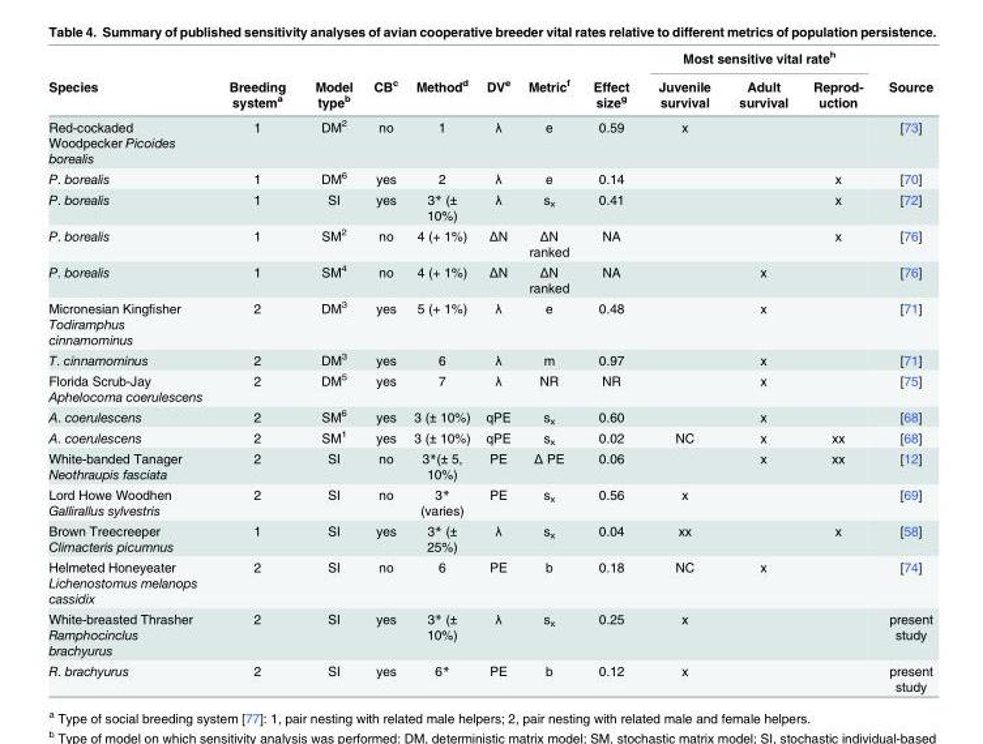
<table><thead><tr><td rowspan="2">Species</td><td rowspan="2">Breeding system<sup>a</sup></td><td rowspan="2">Model type<sup>b</sup></td><td rowspan="2">CB<sup>c</sup></td><td rowspan="2">Method<sup>d</sup></td><td rowspan="2">DV<sup>e</sup></td><td rowspan="2">Metric<sup>f</sup></td><td rowspan="2">Effect size<sup>g</sup></td><td colspan="3">Most sensitive vital rate<sup>h</sup></td><td rowspan="2">Source</td></tr><tr><td>Juvenile survival</td><td>Adult survival</td><td>Reprod- uction</td></tr></thead><tbody><tr><td>Red-cockaded Woodpecker Picoides borealis</td><td>1</td><td>DM<sup>2</sup></td><td>no</td><td>1</td><td>λ</td><td>e</td><td>0.59</td><td>x</td><td></td><td></td><td>[73]</td></tr><tr><td>P. borealis</td><td>1</td><td>DM<sup>6</sup></td><td>yes</td><td>2</td><td>λ</td><td>e</td><td>0.14</td><td></td><td></td><td>x</td><td>[70]</td></tr><tr><td>P. borealis</td><td>1</td><td>SI</td><td>yes</td><td>3* (± 10%)</td><td>λ</td><td>s<sub>x</sub></td><td>0.41</td><td></td><td></td><td>x</td><td>[72]</td></tr><tr><td>P. borealis</td><td>1</td><td>SM<sup>2</sup></td><td>no</td><td>4 (+ 1%)</td><td>ΔN</td><td>ΔN ranked</td><td>NA</td><td></td><td></td><td>x</td><td>[76]</td></tr><tr><td>P. borealis</td><td>1</td><td>SM<sup>4</sup></td><td>no</td><td>4 (+ 1%)</td><td>ΔN</td><td>ΔN ranked</td><td>NA</td><td></td><td>x</td><td></td><td>[76]</td></tr><tr><td>Micronesian Kingfisher Todiramphus cinnamominus</td><td>2</td><td>DM<sup>3</sup></td><td>yes</td><td>5 (+ 1%)</td><td>λ</td><td>e</td><td>0.48</td><td></td><td>x</td><td></td><td>[71]</td></tr><tr><td>T. cinnamominus</td><td>2</td><td>DM<sup>3</sup></td><td>yes</td><td>6</td><td>λ</td><td>m</td><td>0.97</td><td></td><td>x</td><td></td><td>[71]</td></tr><tr><td>Florida Scrub-Jay Aphelocoma coerulescens</td><td>2</td><td>DM<sup>5</sup></td><td>yes</td><td>7</td><td>λ</td><td>NR</td><td>NR</td><td></td><td>x</td><td></td><td>[75]</td></tr><tr><td>A. coerulescens</td><td>2</td><td>SM<sup>6</sup></td><td>yes</td><td>3 (± 10%)</td><td>qPE</td><td>s<sub>x</sub></td><td>0.60</td><td></td><td>x</td><td></td><td>[68]</td></tr><tr><td>A. coerulescens</td><td>2</td><td>SM<sup>1</sup></td><td>yes</td><td>3 (± 10%)</td><td>qPE</td><td>s<sub>x</sub></td><td>0.02</td><td>NC</td><td>x</td><td>xx</td><td>[68]</td></tr><tr><td>White-banded Tanager Neothraupis fasciata</td><td>2</td><td>SI</td><td>no</td><td>3*(± 5, 10%)</td><td>PE</td><td>Δ PE</td><td>0.06</td><td></td><td>x</td><td>xx</td><td>[12]</td></tr><tr><td>Lord Howe Woodhen Gallirallus sylvestris</td><td>2</td><td>SI</td><td>no</td><td>3* (varies)</td><td>PE</td><td>s<sub>x</sub></td><td>0.56</td><td>x</td><td></td><td></td><td>[69]</td></tr><tr><td>Brown Treecreeper Climacteris picumnus</td><td>1</td><td>SI</td><td>yes</td><td>3* (± 25%)</td><td>λ</td><td>s<sub>x</sub></td><td>0.04</td><td>xx</td><td></td><td>x</td><td>[58]</td></tr><tr><td>Helmeted Honeyeater Lichenostomus melanops cassidix</td><td>2</td><td>SI</td><td>no</td><td>6</td><td>PE</td><td>b</td><td>0.18</td><td>NC</td><td>x</td><td></td><td>[74]</td></tr><tr><td>White-breasted Thrasher Ramphocinclus brachyurus</td><td>2</td><td>SI</td><td>yes</td><td>3* (± 10%)</td><td>λ</td><td>s<sub>x</sub></td><td>0.25</td><td>x</td><td></td><td></td><td>present study</td></tr><tr><td>R. brachyurus</td><td>2</td><td>SI</td><td>yes</td><td>6*</td><td>PE</td><td>b</td><td>0.12</td><td>x</td><td></td><td></td><td>present study</td></tr></tbody></table>